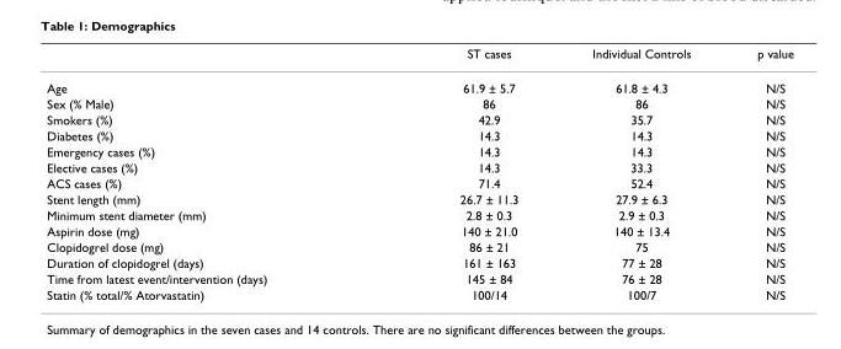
<table><thead><tr><td></td><td>ST cases</td><td>Individual Controls</td><td>p value</td></tr></thead><tbody><tr><td>Age</td><td>61.9 ± 5.7</td><td>61.8 ± 4.3</td><td>N/S</td></tr><tr><td>Sex (% Male)</td><td>86</td><td>86</td><td>N/S</td></tr><tr><td>Smokers (%)</td><td>42.9</td><td>35.7</td><td>N/S</td></tr><tr><td>Diabetes (%)</td><td>14.3</td><td>14.3</td><td>N/S</td></tr><tr><td>Emergency cases (%)</td><td>14.3</td><td>14.3</td><td>N/S</td></tr><tr><td>Elective cases (%)</td><td>14.3</td><td>33.3</td><td>N/S</td></tr><tr><td>ACS cases (%)</td><td>71.4</td><td>52.4</td><td>N/S</td></tr><tr><td>Stent length (mm)</td><td>26.7 ± 11.3</td><td>27.9 ± 6.3</td><td>N/S</td></tr><tr><td>Minimum stent diameter (mm)</td><td>2.8 ± 0.3</td><td>2.9 ± 0.3</td><td>N/S</td></tr><tr><td>Aspirin dose (mg)</td><td>140 ± 21.0</td><td>140 ± 13.4</td><td>N/S</td></tr><tr><td>Clopidogrel dose (mg)</td><td>86 ± 21</td><td>75</td><td>N/S</td></tr><tr><td>Duration of clopidogrel (days)</td><td>161 ± 163</td><td>77 ± 28</td><td>N/S</td></tr><tr><td>Time from latest event/intervention (days)</td><td>145 ± 84</td><td>76 ± 28</td><td>N/S</td></tr><tr><td>Statin (% total/% Atorvastatin)</td><td>100/14</td><td>100/7</td><td>N/S</td></tr></tbody></table>